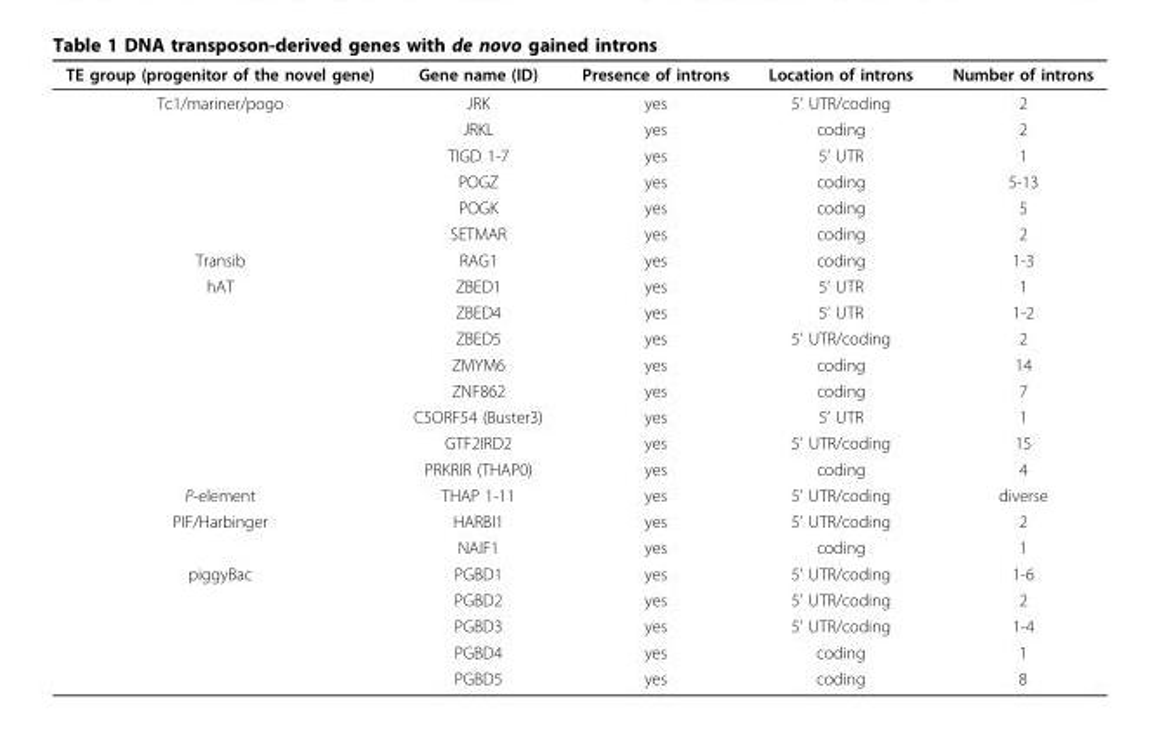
<table><thead><tr><td>TE group (progenitor of the novel gene)</td><td>Gene name (ID)</td><td>Presence of introns</td><td>Location of introns</td><td>Number of introns</td></tr></thead><tbody><tr><td rowspan="6">Tc1/mariner/pogo</td><td>JRK</td><td>yes</td><td>5’ UTR/coding</td><td>2</td></tr><tr><td>JRKL</td><td>yes</td><td>coding</td><td>2</td></tr><tr><td>TIGD 1-7</td><td>yes</td><td>5’ UTR</td><td>1</td></tr><tr><td>POGZ</td><td>yes</td><td>coding</td><td>5-13</td></tr><tr><td>POGK</td><td>yes</td><td>coding</td><td>5</td></tr><tr><td>SETMAR</td><td>yes</td><td>coding</td><td>2</td></tr><tr><td>Transib</td><td>RAG1</td><td>yes</td><td>coding</td><td>1-3</td></tr><tr><td rowspan="8">hAT</td><td>ZBED1</td><td>yes</td><td>5’ UTR</td><td>1</td></tr><tr><td>ZBED4</td><td>yes</td><td>5’ UTR</td><td>1-2</td></tr><tr><td>ZBED5</td><td>yes</td><td>5’ UTR/coding</td><td>2</td></tr><tr><td>ZMYM6</td><td>yes</td><td>coding</td><td>14</td></tr><tr><td>ZNF862</td><td>yes</td><td>coding</td><td>7</td></tr><tr><td>C5ORF54 (Buster3)</td><td>yes</td><td>5’ UTR</td><td>1</td></tr><tr><td>GTF2IRD2</td><td>yes</td><td>5’ UTR/coding</td><td>15</td></tr><tr><td>PRKRIR (THAP0)</td><td>yes</td><td>coding</td><td>4</td></tr><tr><td>P-element</td><td>THAP 1-11</td><td>yes</td><td>5’ UTR/coding</td><td>diverse</td></tr><tr><td rowspan="2">PIF/Harbinger</td><td>HARBI1</td><td>yes</td><td>5’ UTR/coding</td><td>2</td></tr><tr><td>NAIF1</td><td>yes</td><td>coding</td><td>1</td></tr><tr><td rowspan="5">piggyBac</td><td>PGBD1</td><td>yes</td><td>5’ UTR/coding</td><td>1-6</td></tr><tr><td>PGBD2</td><td>yes</td><td>5’ UTR/coding</td><td>2</td></tr><tr><td>PGBD3</td><td>yes</td><td>5’ UTR/coding</td><td>1-4</td></tr><tr><td>PGBD4</td><td>yes</td><td>coding</td><td>1</td></tr><tr><td>PGBD5</td><td>yes</td><td>coding</td><td>8</td></tr></tbody></table>